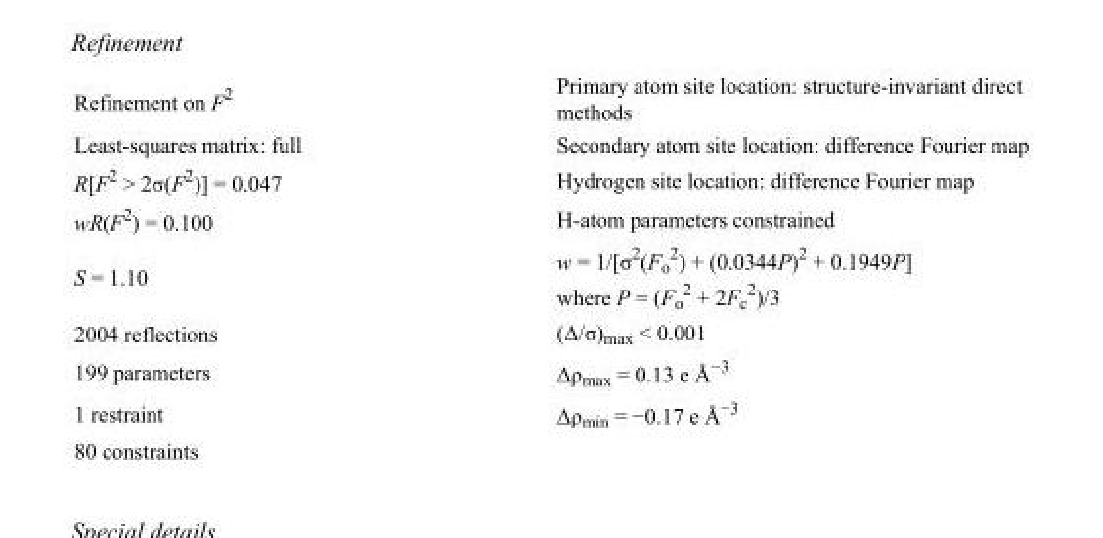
<table><tbody><tr><td>Refinement on F<sup>2</sup></td><td>Primary atom site location: structure-invariant direct methods</td></tr><tr><td>Least-squares matrix: full</td><td>Secondary atom site location: difference Fourier map</td></tr><tr><td>R[F<sup>2</sup> &gt; 2σ(F<sup>2</sup>)] = 0.047</td><td>Hydrogen site location: difference Fourier map</td></tr><tr><td>wR(F<sup>2</sup>) = 0.100</td><td>H-atom parameters constrained</td></tr><tr><td>S = 1.10</td><td>w = 1/[σ<sup>2</sup>(F<sub>o</sub> <sup>2</sup>) + (0.0344P)<sup>2</sup> + 0.1949P] where P = (F<sub>o</sub> <sup>2</sup> + 2F<sub>c</sub> <sup>2</sup>)/3</td></tr><tr><td>2004 reflections</td><td>(Δ/σ)<sub>max</sub> &lt; 0.001</td></tr><tr><td>199 parameters</td><td>Δρ<sub>max</sub> = 0.13 e Å<sup>−3</sup></td></tr><tr><td>1 restraint</td><td>Δρ<sub>min</sub> = −0.17 e Å<sup>−3</sup></td></tr><tr><td>80 constraints</td><td></td></tr></tbody></table>